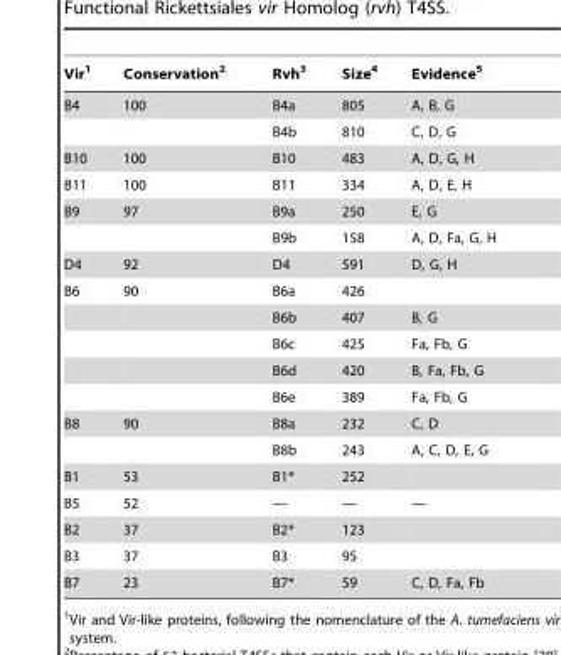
<table><thead><tr><td>Vir<sup>1</sup></td><td>Conservation<sup>2</sup></td><td>Rvh<sup>3</sup></td><td>Size<sup>4</sup></td><td>Evidence<sup>5</sup></td></tr></thead><tbody><tr><td rowspan="2">B4</td><td>100</td><td>B4a</td><td>805</td><td>A, B, G</td></tr><tr><td></td><td>B4b</td><td>810</td><td>C, D, G</td></tr><tr><td>B10</td><td>100</td><td>B10</td><td>483</td><td>A, D, G, H</td></tr><tr><td>B11</td><td>100</td><td>B11</td><td>334</td><td>A, D, E, H</td></tr><tr><td rowspan="2">B9</td><td>97</td><td>B9a</td><td>250</td><td>E, G</td></tr><tr><td></td><td>B9b</td><td>158</td><td>A, D, Fa, G, H</td></tr><tr><td>D4</td><td>92</td><td>D4</td><td>591</td><td>D, G, H</td></tr><tr><td rowspan="5">B6</td><td>90</td><td>B6a</td><td>426</td><td></td></tr><tr><td></td><td>B6b</td><td>407</td><td>B, G</td></tr><tr><td></td><td>B6c</td><td>425</td><td>Fa, Fb, G</td></tr><tr><td></td><td>B6d</td><td>420</td><td>B, Fa, Fb, G</td></tr><tr><td></td><td>B6e</td><td>389</td><td>Fa, Fb, G</td></tr><tr><td rowspan="2">B8</td><td>90</td><td>B8a</td><td>232</td><td>C, D</td></tr><tr><td></td><td>B8b</td><td>243</td><td>A, C, D, E, G</td></tr><tr><td>B1</td><td>53</td><td>B1*</td><td>252</td><td></td></tr><tr><td>B5</td><td>52</td><td>—</td><td>—</td><td>—</td></tr><tr><td>B2</td><td>37</td><td>B2*</td><td>123</td><td></td></tr><tr><td>B3</td><td>37</td><td>B3</td><td>95</td><td></td></tr><tr><td>B7</td><td>23</td><td>B7*</td><td>59</td><td>C, D, Fa, Fb</td></tr></tbody></table>